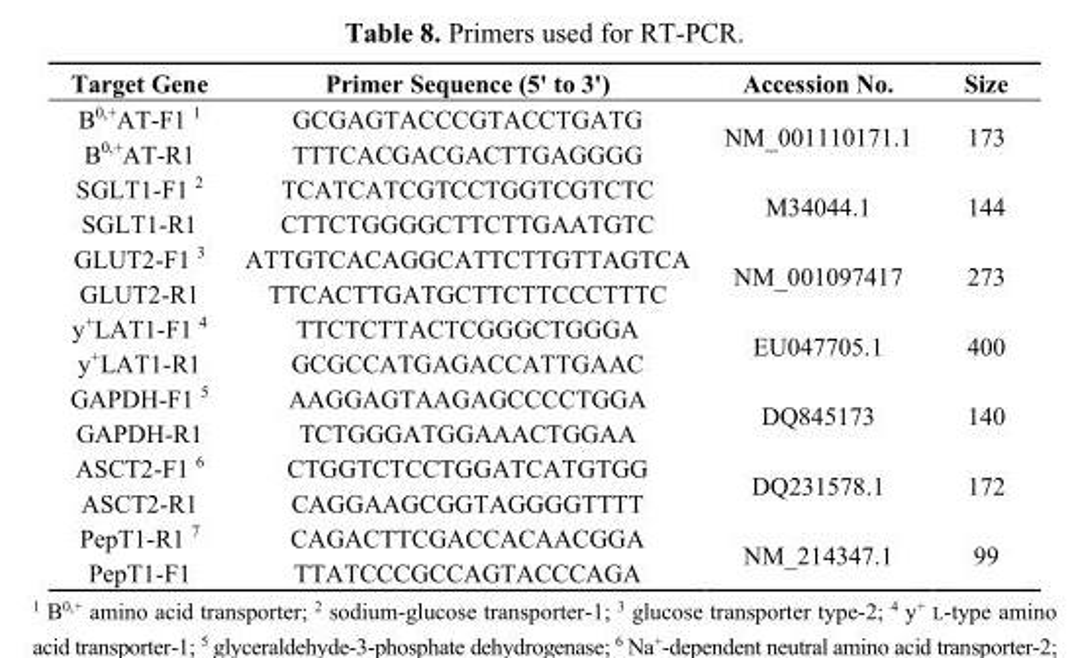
<table><thead><tr><td>Target Gene</td><td>Primer Sequence (5&#x27; to 3&#x27;)</td><td>Accession No.</td><td>Size</td></tr></thead><tbody><tr><td>B<sup>0,+</sup>AT-F1 <sup>1</sup></td><td>GCGAGTACCCGTACCTGATG</td><td rowspan="2">NM_001110171.1</td><td rowspan="2">173</td></tr><tr><td>B<sup>0,+</sup>AT-R1</td><td>TTTCACGACGACTTGAGGGG</td></tr><tr><td>SGLT1-F1 <sup>2</sup></td><td>TCATCATCGTCCTGGTCGTCTC</td><td rowspan="2">M34044.1</td><td rowspan="2">144</td></tr><tr><td>SGLT1-R1</td><td>CTTCTGGGGCTTCTTGAATGTC</td></tr><tr><td>GLUT2-F1 <sup>3</sup></td><td>ATTGTCACAGGCATTCTTGTTAGTCA</td><td rowspan="2">NM_001097417</td><td rowspan="2">273</td></tr><tr><td>GLUT2-R1</td><td>TTCACTTGATGCTTCTTCCCTTTC</td></tr><tr><td>y<sup>+</sup>LAT1-F1 <sup>4</sup></td><td>TTCTCTTACTCGGGCTGGGA</td><td rowspan="2">EU047705.1</td><td rowspan="2">400</td></tr><tr><td>y<sup>+</sup>LAT1-R1</td><td>GCGCCATGAGACCATTGAAC</td></tr><tr><td>GAPDH-F1 <sup>5</sup></td><td>AAGGAGTAAGAGCCCCTGGA</td><td rowspan="2">DQ845173</td><td rowspan="2">140</td></tr><tr><td>GAPDH-R1</td><td>TCTGGGATGGAAACTGGAA</td></tr><tr><td>ASCT2-F1 <sup>6</sup></td><td>CTGGTCTCCTGGATCATGTGG</td><td rowspan="2">DQ231578.1</td><td rowspan="2">172</td></tr><tr><td>ASCT2-R1</td><td>CAGGAAGCGGTAGGGGTTTT</td></tr><tr><td>PepT1-R1 <sup>7</sup></td><td>CAGACTTCGACCACAACGGA</td><td rowspan="2">NM_214347.1</td><td rowspan="2">99</td></tr><tr><td>PepT1-F1</td><td>TTATCCCGCCAGTACCCAGA</td></tr></tbody></table>